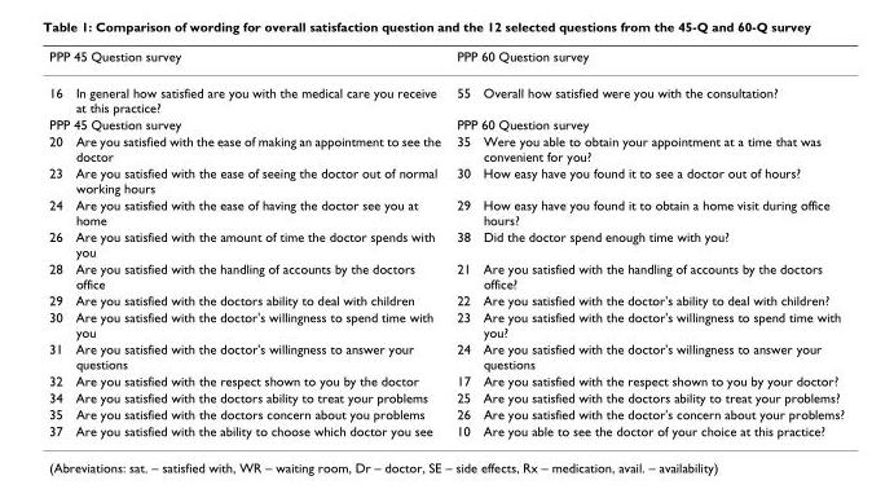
<table><thead><tr><td colspan="2">PPP 45 Question survey</td><td colspan="2">PPP 60 Question survey</td></tr><tr><td>16</td><td>In general how satisfied are you with the medical care you receive at this practice?</td><td>55</td><td>Overall how satisfied were you with the consultation?</td></tr></thead><tbody><tr><td colspan="2">PPP 45 Question survey</td><td colspan="2">PPP 60 Question survey</td></tr><tr><td>20</td><td>Are you satisfied with the ease of making an appointment to see the doctor</td><td>35</td><td>Were you able to obtain your appointment at a time that was convenient for you?</td></tr><tr><td>23</td><td>Are you satisfied with the ease of seeing the doctor out of normal working hours</td><td>30</td><td>How easy have you found it to see a doctor out of hours?</td></tr><tr><td>24</td><td>Are you satisfied with the ease of having the doctor see you at home</td><td>29</td><td>How easy have you found it to obtain a home visit during office hours?</td></tr><tr><td>26</td><td>Are you satisfied with the amount of time the doctor spends with you</td><td>38</td><td>Did the doctor spend enough time with you?</td></tr><tr><td>28</td><td>Are you satisfied with the handling of accounts by the doctors office</td><td>21</td><td>Are you satisfied with the handling of accounts by the doctors office?</td></tr><tr><td>29</td><td>Are you satisfied with the doctors ability to deal with children</td><td>22</td><td>Are you satisfied with the doctor&#x27;s ability to deal with children?</td></tr><tr><td>30</td><td>Are you satisfied with the doctor&#x27;s willingness to spend time with you</td><td>23</td><td>Are you satisfied with the doctor&#x27;s willingness to spend time with you?</td></tr><tr><td>31</td><td>Are you satisfied with the doctor&#x27;s willingness to answer your questions</td><td>24</td><td>Are you satisfied with the doctor&#x27;s willingness to answer your questions</td></tr><tr><td>32</td><td>Are you satisfied with the respect shown to you by the doctor</td><td>17</td><td>Are you satisfied with the respect shown to you by your doctor?</td></tr><tr><td>34</td><td>Are you satisfied with the doctors ability to treat your problems</td><td>25</td><td>Are you satisfied with the doctors ability to treat your problems?</td></tr><tr><td>35</td><td>Are you satisfied with the doctors concern about you problems</td><td>26</td><td>Are you satisfied with the doctor&#x27;s concern about your problems?</td></tr><tr><td>37</td><td>Are you satisfied with the ability to choose which doctor you see</td><td>10</td><td>Are you able to see the doctor of your choice at this practice?</td></tr></tbody></table>